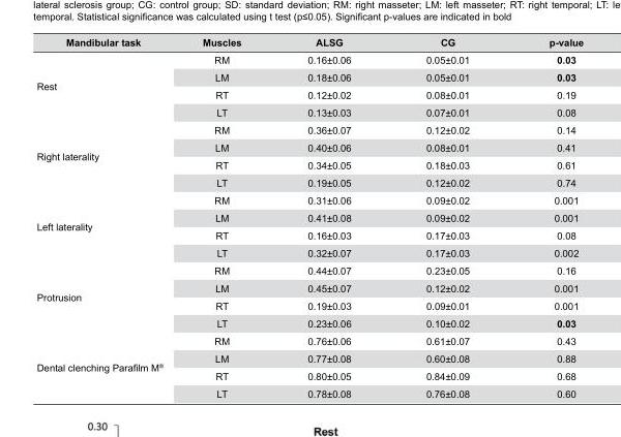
<table><thead><tr><td>Mandibular task</td><td>Muscles</td><td>ALSG</td><td>CG</td><td>p-value</td></tr></thead><tbody><tr><td rowspan="4">Rest</td><td>RM</td><td>0.16±0.06</td><td>0.05±0.01</td><td>0.03</td></tr><tr><td>LM</td><td>0.18±0.06</td><td>0.05±0.01</td><td>0.03</td></tr><tr><td>RT</td><td>0.12±0.02</td><td>0.08±0.01</td><td>0.19</td></tr><tr><td>LT</td><td>0.13±0.03</td><td>0.07±0.01</td><td>0.08</td></tr><tr><td rowspan="4">Right laterality</td><td>RM</td><td>0.36±0.07</td><td>0.12±0.02</td><td>0.14</td></tr><tr><td>LM</td><td>0.40±0.06</td><td>0.08±0.01</td><td>0.41</td></tr><tr><td>RT</td><td>0.34±0.05</td><td>0.18±0.03</td><td>0.61</td></tr><tr><td>LT</td><td>0.19±0.05</td><td>0.12±0.02</td><td>0.74</td></tr><tr><td rowspan="4">Left laterality</td><td>RM</td><td>0.31±0.06</td><td>0.09±0.02</td><td>0.001</td></tr><tr><td>LM</td><td>0.41±0.08</td><td>0.09±0.02</td><td>0.001</td></tr><tr><td>RT</td><td>0.16±0.03</td><td>0.17±0.03</td><td>0.08</td></tr><tr><td>LT</td><td>0.32±0.07</td><td>0.17±0.03</td><td>0.002</td></tr><tr><td rowspan="4">Protrusion</td><td>RM</td><td>0.44±0.07</td><td>0.23±0.05</td><td>0.16</td></tr><tr><td>LM</td><td>0.45±0.07</td><td>0.12±0.02</td><td>0.001</td></tr><tr><td>RT</td><td>0.19±0.03</td><td>0.09±0.01</td><td>0.001</td></tr><tr><td>LT</td><td>0.23±0.06</td><td>0.10±0.02</td><td>0.03</td></tr><tr><td rowspan="4">Dental clenching Parafilm M<sup>®</sup></td><td>RM</td><td>0.76±0.06</td><td>0.61±0.07</td><td>0.43</td></tr><tr><td>LM</td><td>0.77±0.08</td><td>0.60±0.08</td><td>0.88</td></tr><tr><td>RT</td><td>0.80±0.05</td><td>0.84±0.09</td><td>0.68</td></tr><tr><td>LT</td><td>0.78±0.08</td><td>0.76±0.08</td><td>0.60</td></tr></tbody></table>